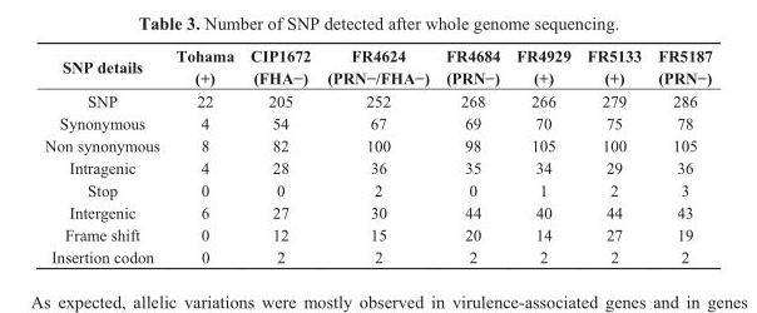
<table><thead><tr><td>SNP details</td><td>Tohama (+)</td><td>CIP1672 (FHA−)</td><td>FR4624 (PRN−/FHA−)</td><td>FR4684 (PRN−)</td><td>FR4929 (+)</td><td>FR5133 (+)</td><td>FR5187 (PRN−)</td></tr></thead><tbody><tr><td>SNP</td><td>22</td><td>205</td><td>252</td><td>268</td><td>266</td><td>279</td><td>286</td></tr><tr><td>Synonymous</td><td>4</td><td>54</td><td>67</td><td>69</td><td>70</td><td>75</td><td>78</td></tr><tr><td>Non synonymous</td><td>8</td><td>82</td><td>100</td><td>98</td><td>105</td><td>100</td><td>105</td></tr><tr><td>Intragenic</td><td>4</td><td>28</td><td>36</td><td>35</td><td>34</td><td>29</td><td>36</td></tr><tr><td>Stop</td><td>0</td><td>0</td><td>2</td><td>0</td><td>1</td><td>2</td><td>3</td></tr><tr><td>Intergenic</td><td>6</td><td>27</td><td>30</td><td>44</td><td>40</td><td>44</td><td>43</td></tr><tr><td>Frame shift</td><td>0</td><td>12</td><td>15</td><td>20</td><td>14</td><td>27</td><td>19</td></tr><tr><td>Insertion codon</td><td>0</td><td>2</td><td>2</td><td>2</td><td>2</td><td>2</td><td>2</td></tr></tbody></table>